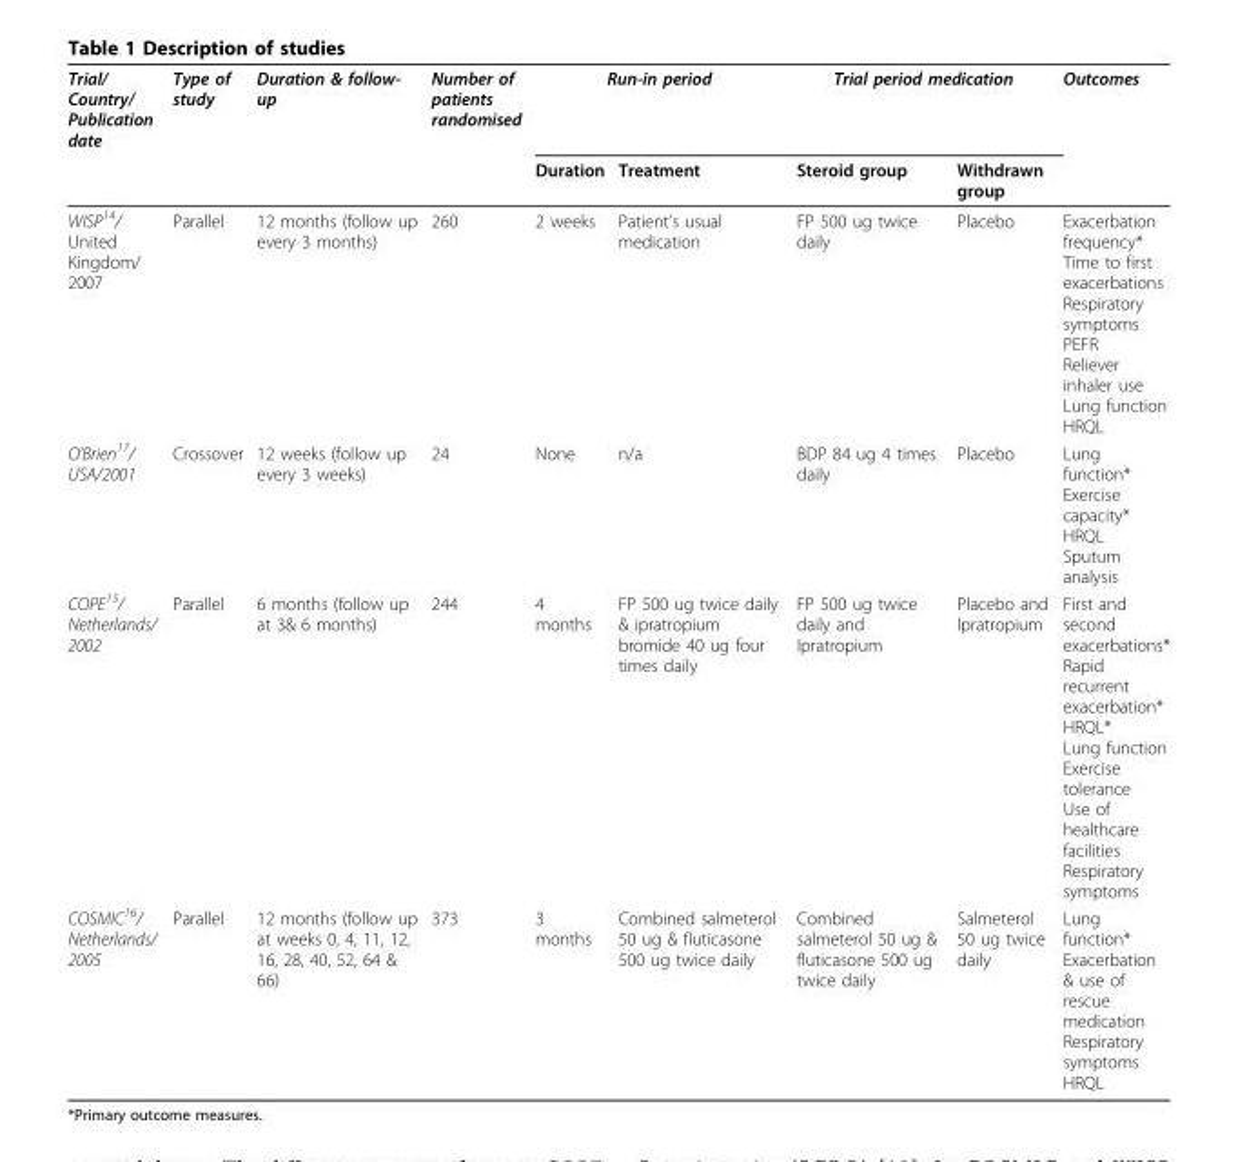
<table><thead><tr><td rowspan="2">Trial/ Country/ Publication date</td><td rowspan="2">Type of study</td><td rowspan="2">Duration &amp; follow- up</td><td rowspan="2">Number of patients randomised</td><td colspan="2">Run-in period</td><td colspan="2">Trial period medication</td><td rowspan="2">Outcomes</td></tr><tr><td>Duration</td><td>Treatment</td><td>Steroid group</td><td>Withdrawn group</td></tr></thead><tbody><tr><td>WISP<sup>14</sup>/ United Kingdom/ 2007</td><td>Parallel</td><td>12 months (follow up every 3 months)</td><td>260</td><td>2 weeks</td><td>Patient’s usual medication</td><td>FP 500 ug twice daily</td><td>Placebo</td><td>Exacerbation frequency* Time to first exacerbations Respiratory symptoms PEFR Reliever inhaler use Lung function HRQL</td></tr><tr><td>O’Brien<sup>17</sup>/ USA/2001</td><td>Crossover</td><td>12 weeks (follow up every 3 weeks)</td><td>24</td><td>None</td><td>n/a</td><td>BDP 84 ug 4 times daily</td><td>Placebo</td><td>Lung function* Exercise capacity* HRQL Sputum analysis</td></tr><tr><td>COPE<sup>15</sup>/ Netherlands/ 2002</td><td>Parallel</td><td>6 months (follow up at 3&amp; 6 months)</td><td>244</td><td>4 months</td><td>FP 500 ug twice daily &amp; ipratropium bromide 40 ug four times daily</td><td>FP 500 ug twice daily and Ipratropium</td><td>Placebo and Ipratropium</td><td>First and second exacerbations* Rapid recurrent exacerbation* HRQL* Lung function Exercise tolerance Use of healthcare facilities Respiratory symptoms</td></tr><tr><td>COSMIC<sup>16</sup>/ Netherlands/ 2005</td><td>Parallel</td><td>12 months (follow up at weeks 0, 4, 11, 12, 16, 28, 40, 52, 64 &amp; 66)</td><td>373</td><td>3 months</td><td>Combined salmeterol 50 ug &amp; fluticasone 500 ug twice daily</td><td>Combined salmeterol 50 ug &amp; fluticasone 500 ug twice daily</td><td>Salmeterol 50 ug twice daily</td><td>Lung function* Exacerbation &amp; use of rescue medication Respiratory symptoms HRQL</td></tr></tbody></table>